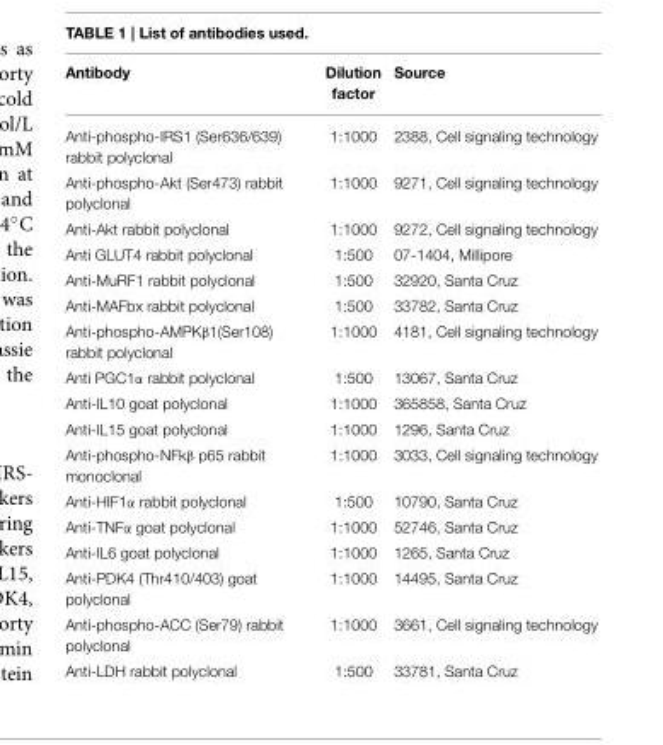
<table><thead><tr><td>Antibody</td><td>Dilution factor</td><td>Source</td></tr></thead><tbody><tr><td>Anti-phospho-IRS1 (Ser636/639) rabbit polyclonal</td><td>1:1000</td><td>2388, Cell signaling technology</td></tr><tr><td>Anti-phospho-Akt (Ser473) rabbit polyclonal</td><td>1:1000</td><td>9271, Cell signaling technology</td></tr><tr><td>Anti-Akt rabbit polyclonal</td><td>1:1000</td><td>9272, Cell signaling technology</td></tr><tr><td>Anti GLUT4 rabbit polyclonal</td><td>1:500</td><td>07-1404, Millipore</td></tr><tr><td>Anti-MuRF1 rabbit polyclonal</td><td>1:500</td><td>32920, Santa Cruz</td></tr><tr><td>Anti-MAFbx rabbit polyclonal</td><td>1:500</td><td>33782, Santa Cruz</td></tr><tr><td>Anti-phospho-AMPKβ1(Ser108) rabbit polyclonal</td><td>1:1000</td><td>4181, Cell signaling technology</td></tr><tr><td>Anti PGC1α rabbit polyclonal</td><td>1:500</td><td>13067, Santa Cruz</td></tr><tr><td>Anti-IL10 goat polyclonal</td><td>1:1000</td><td>365858, Santa Cruz</td></tr><tr><td>Anti-IL15 goat polyclonal</td><td>1:1000</td><td>1296, Santa Cruz</td></tr><tr><td>Anti-phospho-NFkβ p65 rabbit monoclonal</td><td>1:1000</td><td>3033, Cell signaling technology</td></tr><tr><td>Anti-HIF1α rabbit polyclonal</td><td>1:500</td><td>10790, Santa Cruz</td></tr><tr><td>Anti-TNFα goat polyclonal</td><td>1:1000</td><td>52746, Santa Cruz</td></tr><tr><td>Anti-IL6 goat polyclonal</td><td>1:1000</td><td>1265, Santa Cruz</td></tr><tr><td>Anti-PDK4 (Thr410/403) goat polyclonal</td><td>1:1000</td><td>14495, Santa Cruz</td></tr><tr><td>Anti-phospho-ACC (Ser79) rabbit polyclonal</td><td>1:1000</td><td>3661, Cell signaling technology</td></tr><tr><td>Anti-LDH rabbit polyclonal</td><td>1:500</td><td>33781, Santa Cruz</td></tr></tbody></table>